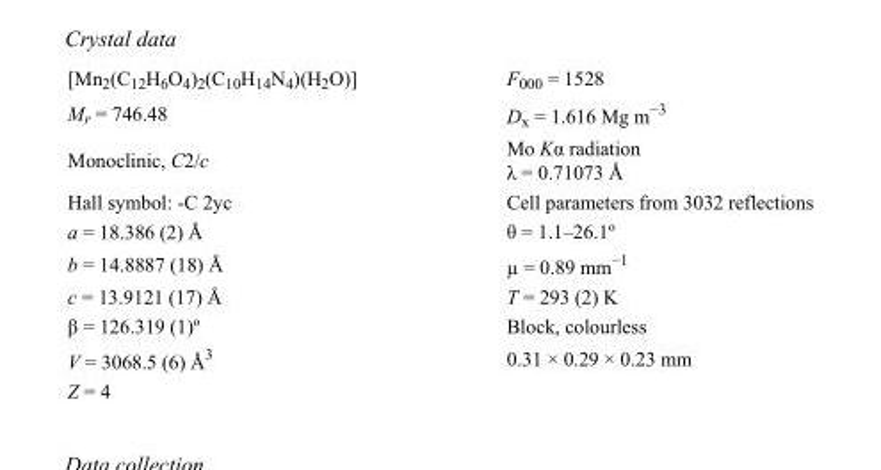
<table><tbody><tr><td>[Mn<sub>2</sub>(C<sub>12</sub>H<sub>6</sub>O<sub>4</sub>)<sub>2</sub>(C<sub>10</sub>H<sub>14</sub>N<sub>4</sub>)(H<sub>2</sub>O)]</td><td>F<sub>000</sub> = 1528</td></tr><tr><td>M<sub>r</sub> = 746.48</td><td>D<sub>x</sub> = 1.616 Mg m<sup>−3</sup></td></tr><tr><td>Monoclinic, C2/c</td><td>Mo Kα radiation λ = 0.71073 Å</td></tr><tr><td>Hall symbol: -C 2yc</td><td>Cell parameters from 3032 reflections</td></tr><tr><td>a = 18.386 (2) Å</td><td>θ = 1.1–26.1º</td></tr><tr><td>b = 14.8887 (18) Å</td><td>µ = 0.89 mm<sup>−1</sup></td></tr><tr><td>c = 13.9121 (17) Å</td><td>T = 293 (2) K</td></tr><tr><td>β = 126.319 (1)º</td><td>Block, colourless</td></tr><tr><td>V = 3068.5 (6) Å<sup>3</sup></td><td>0.31 × 0.29 × 0.23 mm</td></tr><tr><td>Z = 4</td><td></td></tr></tbody></table>